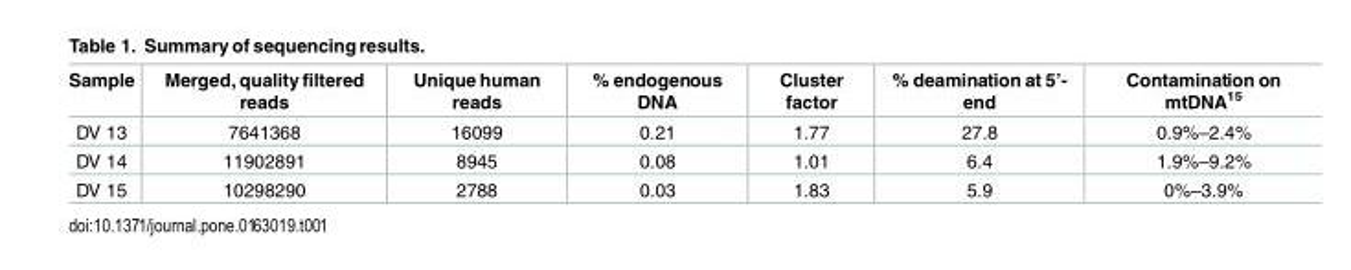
<table><thead><tr><td>Sample</td><td>Merged, quality filtered reads</td><td>Unique human reads</td><td>% endogenous DNA</td><td>Cluster factor</td><td>% deamination at 5’- end</td><td>Contamination on mtDNA<sup>15</sup></td></tr></thead><tbody><tr><td>DV 13</td><td>7641368</td><td>16099</td><td>0.21</td><td>1.77</td><td>27.8</td><td>0.9%–2.4%</td></tr><tr><td>DV 14</td><td>11902891</td><td>8945</td><td>0.08</td><td>1.01</td><td>6.4</td><td>1.9%–9.2%</td></tr><tr><td>DV 15</td><td>10298290</td><td>2788</td><td>0.03</td><td>1.83</td><td>5.9</td><td>0%–3.9%</td></tr></tbody></table>